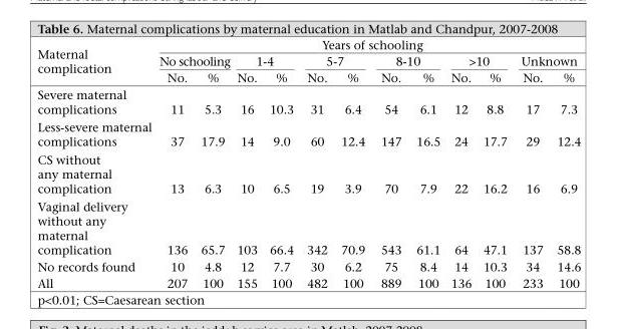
<table><thead><tr><td rowspan="3">Maternal complication</td><td colspan="12">Years of schooling</td></tr><tr><td colspan="2">No schooling</td><td colspan="2">1-4</td><td colspan="2">5-7</td><td colspan="2">8-10</td><td colspan="2">&gt;10</td><td colspan="2">Unknown</td></tr><tr><td>No.</td><td>%</td><td>No.</td><td>%</td><td>No.</td><td>%</td><td>No.</td><td>%</td><td>No.</td><td>%</td><td>No.</td><td>%</td></tr></thead><tbody><tr><td>Severe maternal complications</td><td>11</td><td>5.3</td><td>16</td><td>10.3</td><td>31</td><td>6.4</td><td>54</td><td>6.1</td><td>12</td><td>8.8</td><td>17</td><td>7.3</td></tr><tr><td>Less-severe maternal complications</td><td>37</td><td>17.9</td><td>14</td><td>9.0</td><td>60</td><td>12.4</td><td>147</td><td>16.5</td><td>24</td><td>17.7</td><td>29</td><td>12.4</td></tr><tr><td>CS without any maternal complication</td><td>13</td><td>6.3</td><td>10</td><td>6.5</td><td>19</td><td>3.9</td><td>70</td><td>7.9</td><td>22</td><td>16.2</td><td>16</td><td>6.9</td></tr><tr><td>Vaginal delivery without any maternal complication</td><td>136</td><td>65.7</td><td>103</td><td>66.4</td><td>342</td><td>70.9</td><td>543</td><td>61.1</td><td>64</td><td>47.1</td><td>137</td><td>58.8</td></tr><tr><td>No records found</td><td>10</td><td>4.8</td><td>12</td><td>7.7</td><td>30</td><td>6.2</td><td>75</td><td>8.4</td><td>14</td><td>10.3</td><td>34</td><td>14.6</td></tr><tr><td>All</td><td>207</td><td>100</td><td>155</td><td>100</td><td>482</td><td>100</td><td>889</td><td>100</td><td>136</td><td>100</td><td>233</td><td>100</td></tr></tbody></table>